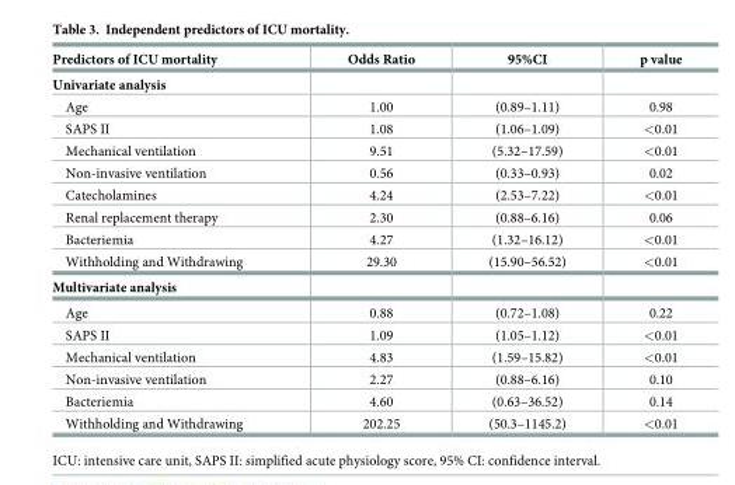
<table><thead><tr><td>Predictors of ICU mortality</td><td>Odds Ratio</td><td>95%CI</td><td>p value</td></tr></thead><tbody><tr><td colspan="4">Univariate analysis</td></tr><tr><td>Age</td><td>1.00</td><td>(0.89–1.11)</td><td>0.98</td></tr><tr><td>SAPS II</td><td>1.08</td><td>(1.06–1.09)</td><td>&lt;0.01</td></tr><tr><td>Mechanical ventilation</td><td>9.51</td><td>(5.32–17.59)</td><td>&lt;0.01</td></tr><tr><td>Non-invasive ventilation</td><td>0.56</td><td>(0.33–0.93)</td><td>0.02</td></tr><tr><td>Catecholamines</td><td>4.24</td><td>(2.53–7.22)</td><td>&lt;0.01</td></tr><tr><td>Renal replacement therapy</td><td>2.30</td><td>(0.88–6.16)</td><td>0.06</td></tr><tr><td>Bacteriemia</td><td>4.27</td><td>(1.32–16.12)</td><td>&lt;0.01</td></tr><tr><td>Withholding and Withdrawing</td><td>29.30</td><td>(15.90–56.52)</td><td>&lt;0.01</td></tr><tr><td colspan="4">Multivariate analysis</td></tr><tr><td>Age</td><td>0.88</td><td>(0.72–1.08)</td><td>0.22</td></tr><tr><td>SAPS II</td><td>1.09</td><td>(1.05–1.12)</td><td>&lt;0.01</td></tr><tr><td>Mechanical ventilation</td><td>4.83</td><td>(1.59–15.82)</td><td>&lt;0.01</td></tr><tr><td>Non-invasive ventilation</td><td>2.27</td><td>(0.88–6.16)</td><td>0.10</td></tr><tr><td>Bacteriemia</td><td>4.60</td><td>(0.63–36.52)</td><td>0.14</td></tr><tr><td>Withholding and Withdrawing</td><td>202.25</td><td>(50.3–1145.2)</td><td>&lt;0.01</td></tr></tbody></table>